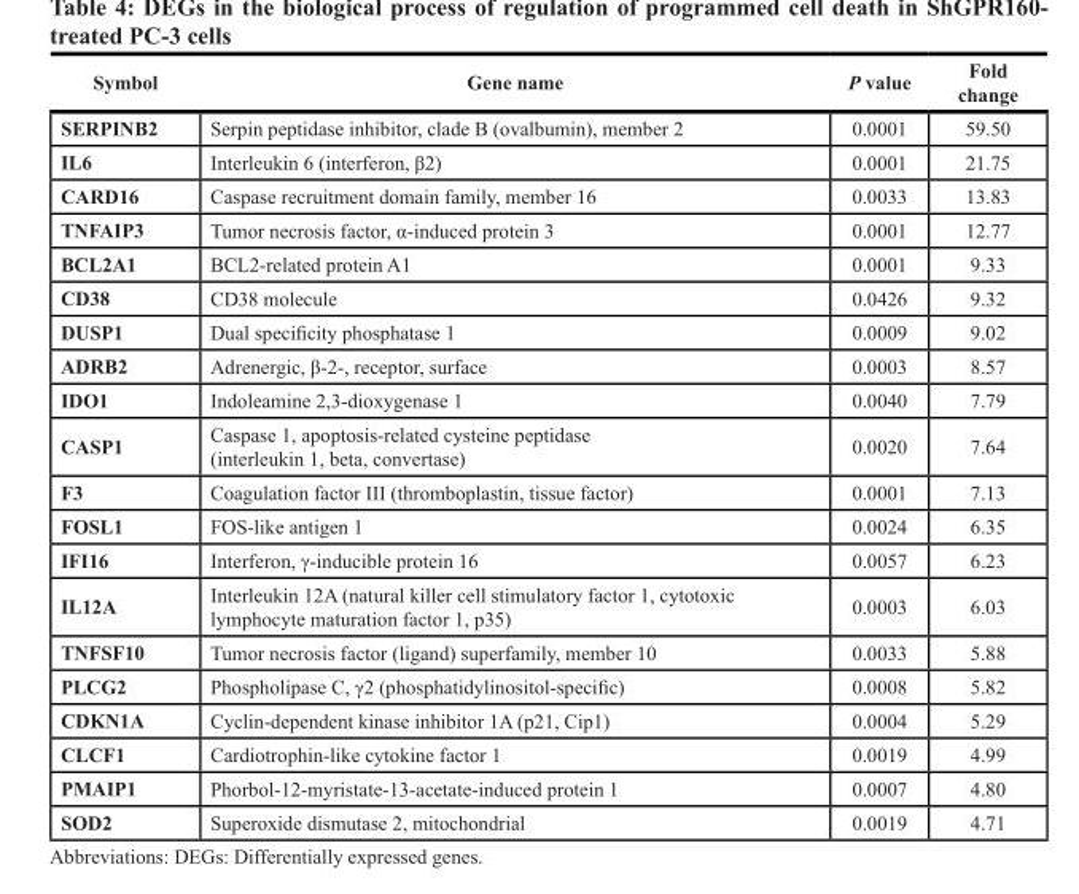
<table><thead><tr><td>Symbol</td><td>Gene name</td><td>P value</td><td>Fold change</td></tr></thead><tbody><tr><td>SERPINB2</td><td>Serpin peptidase inhibitor, clade B (ovalbumin), member 2</td><td>0.0001</td><td>59.50</td></tr><tr><td>IL6</td><td>Interleukin 6 (interferon, β2)</td><td>0.0001</td><td>21.75</td></tr><tr><td>CARD16</td><td>Caspase recruitment domain family, member 16</td><td>0.0033</td><td>13.83</td></tr><tr><td>TNFAIP3</td><td>Tumor necrosis factor, α-induced protein 3</td><td>0.0001</td><td>12.77</td></tr><tr><td>BCL2A1</td><td>BCL2-related protein A1</td><td>0.0001</td><td>9.33</td></tr><tr><td>CD38</td><td>CD38 molecule</td><td>0.0426</td><td>9.32</td></tr><tr><td>DUSP1</td><td>Dual specificity phosphatase 1</td><td>0.0009</td><td>9.02</td></tr><tr><td>ADRB2</td><td>Adrenergic, β-2-, receptor, surface</td><td>0.0003</td><td>8.57</td></tr><tr><td>IDO1</td><td>Indoleamine 2,3-dioxygenase 1</td><td>0.0040</td><td>7.79</td></tr><tr><td>CASP1</td><td>Caspase 1, apoptosis-related cysteine peptidase (interleukin 1, beta, convertase)</td><td>0.0020</td><td>7.64</td></tr><tr><td>F3</td><td>Coagulation factor III (thromboplastin, tissue factor)</td><td>0.0001</td><td>7.13</td></tr><tr><td>FOSL1</td><td>FOS-like antigen 1</td><td>0.0024</td><td>6.35</td></tr><tr><td>IFI16</td><td>Interferon, γ-inducible protein 16</td><td>0.0057</td><td>6.23</td></tr><tr><td>IL12A</td><td>Interleukin 12A (natural killer cell stimulatory factor 1, cytotoxic lymphocyte maturation factor 1, p35)</td><td>0.0003</td><td>6.03</td></tr><tr><td>TNFSF10</td><td>Tumor necrosis factor (ligand) superfamily, member 10</td><td>0.0033</td><td>5.88</td></tr><tr><td>PLCG2</td><td>Phospholipase C, γ2 (phosphatidylinositol-specific)</td><td>0.0008</td><td>5.82</td></tr><tr><td>CDKN1A</td><td>Cyclin-dependent kinase inhibitor 1A (p21, Cip1)</td><td>0.0004</td><td>5.29</td></tr><tr><td>CLCF1</td><td>Cardiotrophin-like cytokine factor 1</td><td>0.0019</td><td>4.99</td></tr><tr><td>PMAIP1</td><td>Phorbol-12-myristate-13-acetate-induced protein 1</td><td>0.0007</td><td>4.80</td></tr><tr><td>SOD2</td><td>Superoxide dismutase 2, mitochondrial</td><td>0.0019</td><td>4.71</td></tr></tbody></table>